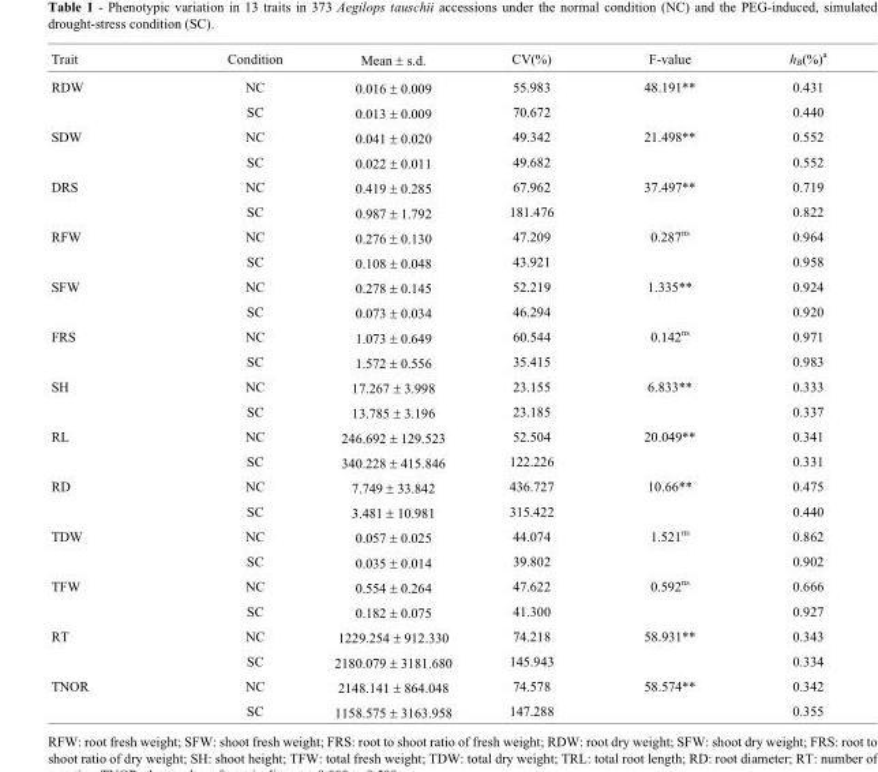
<table><thead><tr><td>Trait</td><td>Condition</td><td>Mean ± s.d.</td><td>CV(%)</td><td>F-value</td><td>h<sub>B</sub>(%)<sup>a</sup></td></tr></thead><tbody><tr><td rowspan="2">RDW</td><td>NC</td><td>0.016 ± 0.009</td><td>55.983</td><td>48.191**</td><td>0.431</td></tr><tr><td>SC</td><td>0.013 ± 0.009</td><td>70.672</td><td></td><td>0.440</td></tr><tr><td rowspan="2">SDW</td><td>NC</td><td>0.041 ± 0.020</td><td>49.342</td><td>21.498**</td><td>0.552</td></tr><tr><td>SC</td><td>0.022 ± 0.011</td><td>49.682</td><td></td><td>0.552</td></tr><tr><td rowspan="2">DRS</td><td>NC</td><td>0.419 ± 0.285</td><td>67.962</td><td>37.497**</td><td>0.719</td></tr><tr><td>SC</td><td>0.987 ± 1.792</td><td>181.476</td><td></td><td>0.822</td></tr><tr><td rowspan="2">RFW</td><td>NC</td><td>0.276 ± 0.130</td><td>47.209</td><td>0.287<sup>ns</sup></td><td>0.964</td></tr><tr><td>SC</td><td>0.108 ± 0.048</td><td>43.921</td><td></td><td>0.958</td></tr><tr><td rowspan="2">SFW</td><td>NC</td><td>0.278 ± 0.145</td><td>52.219</td><td>1.335**</td><td>0.924</td></tr><tr><td>SC</td><td>0.073 ± 0.034</td><td>46.294</td><td></td><td>0.920</td></tr><tr><td rowspan="2">FRS</td><td>NC</td><td>1.073 ± 0.649</td><td>60.544</td><td>0.142<sup>ns</sup></td><td>0.971</td></tr><tr><td>SC</td><td>1.572 ± 0.556</td><td>35.415</td><td></td><td>0.983</td></tr><tr><td rowspan="2">SH</td><td>NC</td><td>17.267 ± 3.998</td><td>23.155</td><td>6.833**</td><td>0.333</td></tr><tr><td>SC</td><td>13.785 ± 3.196</td><td>23.185</td><td></td><td>0.337</td></tr><tr><td rowspan="2">RL</td><td>NC</td><td>246.692 ± 129.523</td><td>52.504</td><td>20.049**</td><td>0.341</td></tr><tr><td>SC</td><td>340.228 ± 415.846</td><td>122.226</td><td></td><td>0.331</td></tr><tr><td rowspan="2">RD</td><td>NC</td><td>7.749 ± 33.842</td><td>436.727</td><td>10.66**</td><td>0.475</td></tr><tr><td>SC</td><td>3.481 ± 10.981</td><td>315.422</td><td></td><td>0.440</td></tr><tr><td rowspan="2">TDW</td><td>NC</td><td>0.057 ± 0.025</td><td>44.074</td><td>1.521<sup>ns</sup></td><td>0.862</td></tr><tr><td>SC</td><td>0.035 ± 0.014</td><td>39.802</td><td></td><td>0.902</td></tr><tr><td rowspan="2">TFW</td><td>NC</td><td>0.554 ± 0.264</td><td>47.622</td><td>0.592<sup>ns</sup></td><td>0.666</td></tr><tr><td>SC</td><td>0.182 ± 0.075</td><td>41.300</td><td></td><td>0.927</td></tr><tr><td rowspan="2">RT</td><td>NC</td><td>1229.254 ± 912.330</td><td>74.218</td><td>58.931**</td><td>0.343</td></tr><tr><td>SC</td><td>2180.079 ± 3181.680</td><td>145.943</td><td></td><td>0.334</td></tr><tr><td rowspan="2">TNOR</td><td>NC</td><td>2148.141 ± 864.048</td><td>74.578</td><td>58.574**</td><td>0.342</td></tr><tr><td>SC</td><td>1158.575 ± 3163.958</td><td>147.288</td><td></td><td>0.355</td></tr></tbody></table>